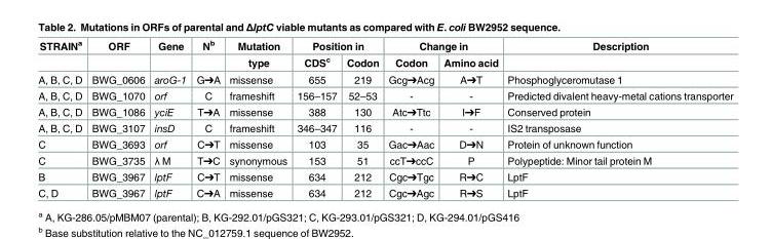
<table><thead><tr><td rowspan="2">STRAIN<sup>a</sup></td><td rowspan="2">ORF</td><td rowspan="2">Gene</td><td rowspan="2">N<sup>b</sup></td><td rowspan="2">Mutation type</td><td colspan="2">Position in</td><td colspan="2">Change in</td><td rowspan="2">Description</td></tr><tr><td>CDS<sup>c</sup></td><td>Codon</td><td>Codon</td><td>Amino acid</td></tr></thead><tbody><tr><td>A, B, C, D</td><td>BWG_0606</td><td>aroG-1</td><td>G➔A</td><td>missense</td><td>655</td><td>219</td><td>Gcg➔Acg</td><td>A➔T</td><td>Phosphoglyceromutase 1</td></tr><tr><td>A, B, C, D</td><td>BWG_1070</td><td>orf</td><td>C</td><td>frameshift</td><td>156–157</td><td>52–53</td><td>-</td><td>-</td><td>Predicted divalent heavy-metal cations transporter</td></tr><tr><td>A, B, C, D</td><td>BWG_1086</td><td>yciE</td><td>T➔A</td><td>missense</td><td>388</td><td>130</td><td>Atc➔Ttc</td><td>I➔F</td><td>Conserved protein</td></tr><tr><td>A, B, C, D</td><td>BWG_3107</td><td>insD</td><td>C</td><td>frameshift</td><td>346–347</td><td>116</td><td>-</td><td>-</td><td>IS2 transposase</td></tr><tr><td>C</td><td>BWG_3693</td><td>orf</td><td>C➔T</td><td>missense</td><td>103</td><td>35</td><td>Gac➔Aac</td><td>D➔N</td><td>Protein of unknown function</td></tr><tr><td>C</td><td>BWG_3735</td><td>λ M</td><td>T➔C</td><td>synonymous</td><td>153</td><td>51</td><td>ccT➔ccC</td><td>P</td><td>Polypeptide: Minor tail protein M</td></tr><tr><td>B</td><td>BWG_3967</td><td>lptF</td><td>C➔T</td><td>missense</td><td>634</td><td>212</td><td>Cgc➔Tgc</td><td>R➔C</td><td>LptF</td></tr><tr><td>C, D</td><td>BWG_3967</td><td>lptF</td><td>C➔A</td><td>missense</td><td>634</td><td>212</td><td>Cgc➔Agc</td><td>R➔S</td><td>LptF</td></tr></tbody></table>